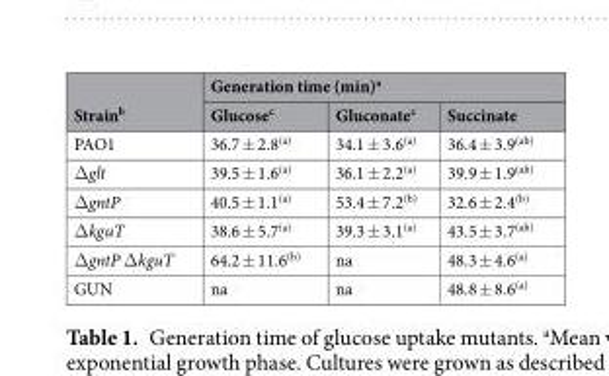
<table><thead><tr><td rowspan="2">Strain<sup>b</sup></td><td colspan="3">Generation time (min)<sup>a</sup></td></tr><tr><td>Glucose<sup>c</sup></td><td>Gluconate<sup>c</sup></td><td>Succinate</td></tr></thead><tbody><tr><td>PAO1</td><td>36.7 ± 2.8<sup>(a)</sup></td><td>34.1 ± 3.6<sup>(a)</sup></td><td>36.4 ± 3.9<sup>(ab)</sup></td></tr><tr><td>Δglt</td><td>39.5 ± 1.6<sup>(a)</sup></td><td>36.1 ± 2.2<sup>(a)</sup></td><td>39.9 ± 1.9<sup>(ab)</sup></td></tr><tr><td>ΔgntP</td><td>40.5 ± 1.1<sup>(a)</sup></td><td>53.4 ± 7.2<sup>(b)</sup></td><td>32.6 ± 2.4<sup>(b)</sup></td></tr><tr><td>ΔkguT</td><td>38.6 ± 5.7<sup>(a)</sup></td><td>39.3 ± 3.1<sup>(a)</sup></td><td>43.5 ± 3.7<sup>(ab)</sup></td></tr><tr><td>ΔgntP ΔkguT</td><td>64.2 ± 11.6<sup>(b)</sup></td><td>na</td><td>48.3 ± 4.6<sup>(a)</sup></td></tr><tr><td>GUN</td><td>na</td><td>na</td><td>48.8 ± 8.6<sup>(a)</sup></td></tr></tbody></table>